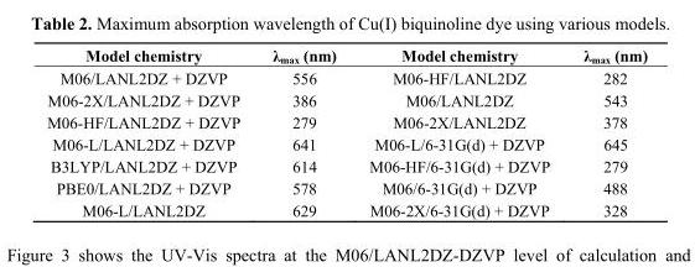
<table><thead><tr><td>Model chemistry</td><td>λ<sub>max</sub> (nm)</td><td>Model chemistry</td><td>λ<sub>max</sub> (nm)</td></tr></thead><tbody><tr><td>M06/LANL2DZ + DZVP</td><td>556</td><td>M06-HF/LANL2DZ</td><td>282</td></tr><tr><td>M06-2X/LANL2DZ + DZVP</td><td>386</td><td>M06/LANL2DZ</td><td>543</td></tr><tr><td>M06-HF/LANL2DZ + DZVP</td><td>279</td><td>M06-2X/LANL2DZ</td><td>378</td></tr><tr><td>M06-L/LANL2DZ + DZVP</td><td>641</td><td>M06-L/6-31G(d) + DZVP</td><td>645</td></tr><tr><td>B3LYP/LANL2DZ + DZVP</td><td>614</td><td>M06-HF/6-31G(d) + DZVP</td><td>279</td></tr><tr><td>PBE0/LANL2DZ + DZVP</td><td>578</td><td>M06/6-31G(d) + DZVP</td><td>488</td></tr><tr><td>M06-L/LANL2DZ</td><td>629</td><td>M06-2X/6-31G(d) + DZVP</td><td>328</td></tr></tbody></table>